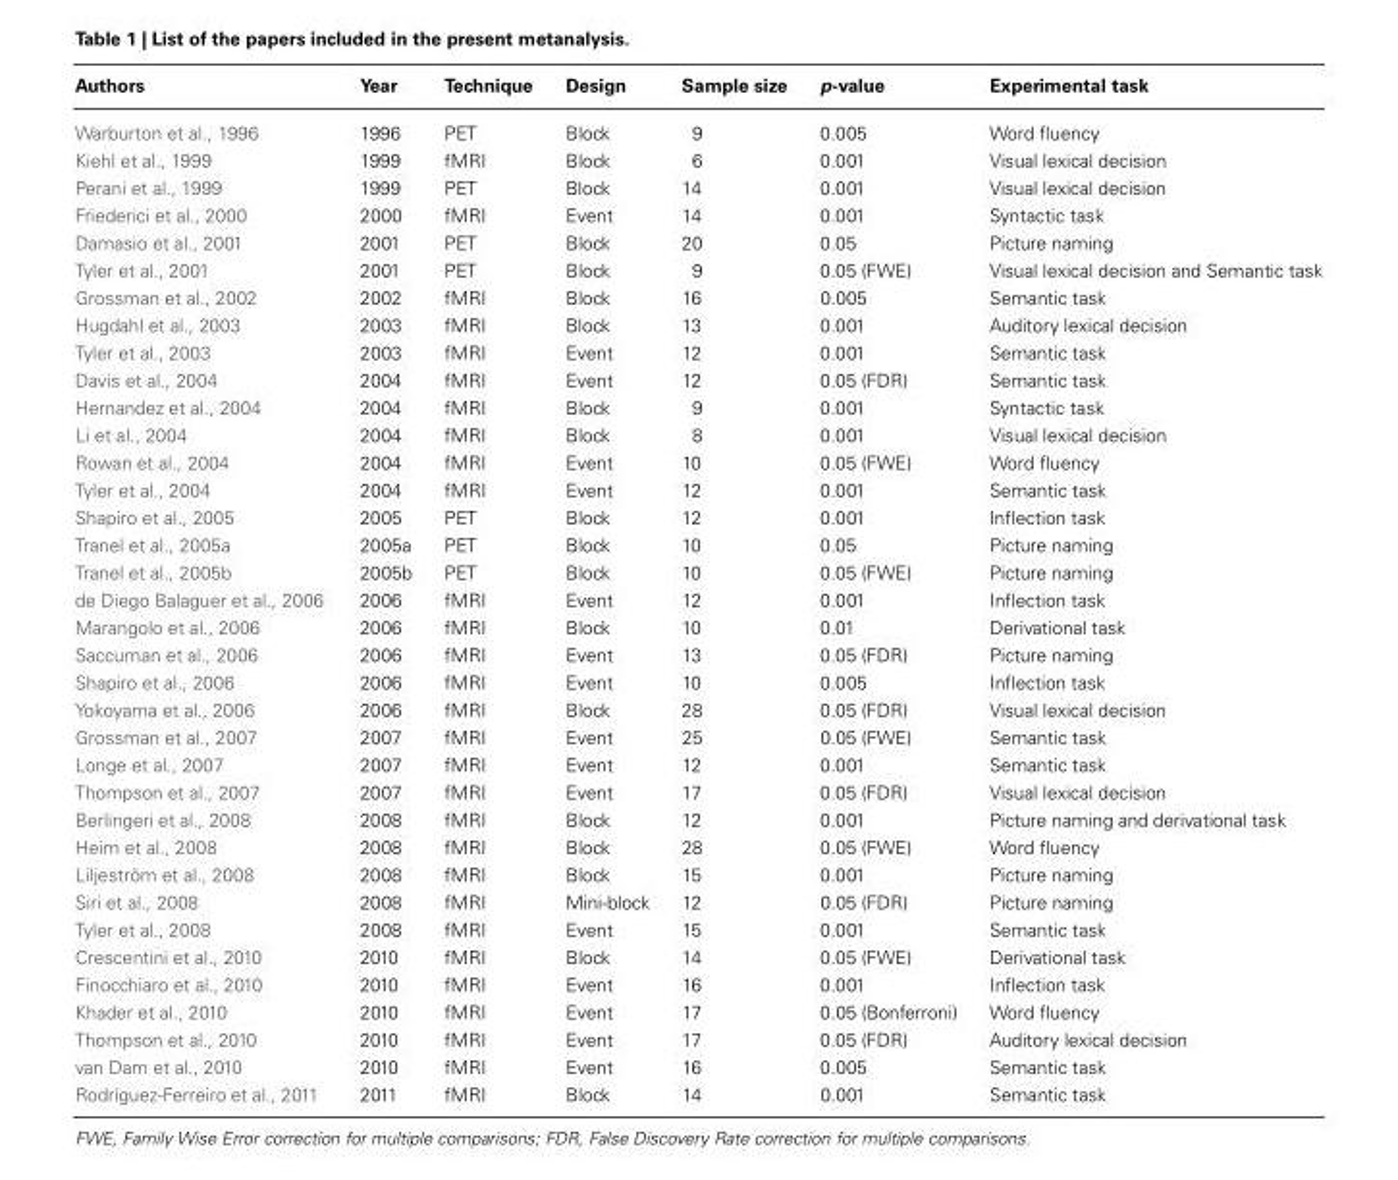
<table><thead><tr><td>Authors</td><td>Year</td><td>Technique</td><td>Design</td><td>Sample size</td><td>p-value</td><td>Experimental task</td></tr></thead><tbody><tr><td>Warburton et al., 1996</td><td>1996</td><td>PET</td><td>Block</td><td>9</td><td>0.005</td><td>Word fluency</td></tr><tr><td>Kiehl et al., 1999</td><td>1999</td><td>fMRI</td><td>Block</td><td>6</td><td>0.001</td><td>Visual lexical decision</td></tr><tr><td>Perani et al., 1999</td><td>1999</td><td>PET</td><td>Block</td><td>14</td><td>0.001</td><td>Visual lexical decision</td></tr><tr><td>Friederici et al., 2000</td><td>2000</td><td>fMRI</td><td>Event</td><td>14</td><td>0.001</td><td>Syntactic task</td></tr><tr><td>Damasio et al., 2001</td><td>2001</td><td>PET</td><td>Block</td><td>20</td><td>0.05</td><td>Picture naming</td></tr><tr><td>Tyler et al., 2001</td><td>2001</td><td>PET</td><td>Block</td><td>9</td><td>0.05 (FWE)</td><td>Visual lexical decision and Semantic task</td></tr><tr><td>Grossman et al., 2002</td><td>2002</td><td>fMRI</td><td>Block</td><td>16</td><td>0.005</td><td>Semantic task</td></tr><tr><td>Hugdahl et al., 2003</td><td>2003</td><td>fMRI</td><td>Block</td><td>13</td><td>0.001</td><td>Auditory lexical decision</td></tr><tr><td>Tyler et al., 2003</td><td>2003</td><td>fMRI</td><td>Event</td><td>12</td><td>0.001</td><td>Semantic task</td></tr><tr><td>Davis et al., 2004</td><td>2004</td><td>fMRI</td><td>Event</td><td>12</td><td>0.05 (FDR)</td><td>Semantic task</td></tr><tr><td>Hernandez et al., 2004</td><td>2004</td><td>fMRI</td><td>Block</td><td>9</td><td>0.001</td><td>Syntactic task</td></tr><tr><td>Li et al., 2004</td><td>2004</td><td>fMRI</td><td>Block</td><td>8</td><td>0.001</td><td>Visual lexical decision</td></tr><tr><td>Rowan et al., 2004</td><td>2004</td><td>fMRI</td><td>Event</td><td>10</td><td>0.05 (FWE)</td><td>Word fluency</td></tr><tr><td>Tyler et al., 2004</td><td>2004</td><td>fMRI</td><td>Event</td><td>12</td><td>0.001</td><td>Semantic task</td></tr><tr><td>Shapiro et al., 2005</td><td>2005</td><td>PET</td><td>Block</td><td>12</td><td>0.001</td><td>Inflection task</td></tr><tr><td>Tranel et al., 2005a</td><td>2005a</td><td>PET</td><td>Block</td><td>10</td><td>0.05</td><td>Picture naming</td></tr><tr><td>Tranel et al., 2005b</td><td>2005b</td><td>PET</td><td>Block</td><td>10</td><td>0.05 (FWE)</td><td>Picture naming</td></tr><tr><td>de Diego Balaguer et al., 2006</td><td>2006</td><td>fMRI</td><td>Event</td><td>12</td><td>0.001</td><td>Inflection task</td></tr><tr><td>Marangolo et al., 2006</td><td>2006</td><td>fMRI</td><td>Block</td><td>10</td><td>0.01</td><td>Derivational task</td></tr><tr><td>Saccuman et al., 2006</td><td>2006</td><td>fMRI</td><td>Event</td><td>13</td><td>0.05 (FDR)</td><td>Picture naming</td></tr><tr><td>Shapiro et al., 2006</td><td>2006</td><td>fMRI</td><td>Event</td><td>10</td><td>0.005</td><td>Inflection task</td></tr><tr><td>Yokoyama et al., 2006</td><td>2006</td><td>fMRI</td><td>Block</td><td>28</td><td>0.05 (FDR)</td><td>Visual lexical decision</td></tr><tr><td>Grossman et al., 2007</td><td>2007</td><td>fMRI</td><td>Event</td><td>25</td><td>0.05 (FWE)</td><td>Semantic task</td></tr><tr><td>Longe et al., 2007</td><td>2007</td><td>fMRI</td><td>Event</td><td>12</td><td>0.001</td><td>Semantic task</td></tr><tr><td>Thompson et al., 2007</td><td>2007</td><td>fMRI</td><td>Event</td><td>17</td><td>0.05 (FDR)</td><td>Visual lexical decision</td></tr><tr><td>Berlingeri et al., 2008</td><td>2008</td><td>fMRI</td><td>Block</td><td>12</td><td>0.001</td><td>Picture naming and derivational task</td></tr><tr><td>Heim et al., 2008</td><td>2008</td><td>fMRI</td><td>Block</td><td>28</td><td>0.05 (FWE)</td><td>Word fluency</td></tr><tr><td>Liljeström et al., 2008</td><td>2008</td><td>fMRI</td><td>Block</td><td>15</td><td>0.001</td><td>Picture naming</td></tr><tr><td>Siri et al., 2008</td><td>2008</td><td>fMRI</td><td>Mini-block</td><td>12</td><td>0.05 (FDR)</td><td>Picture naming</td></tr><tr><td>Tyler et al., 2008</td><td>2008</td><td>fMRI</td><td>Event</td><td>15</td><td>0.001</td><td>Semantic task</td></tr><tr><td>Crescentini et al., 2010</td><td>2010</td><td>fMRI</td><td>Block</td><td>14</td><td>0.05 (FWE)</td><td>Derivational task</td></tr><tr><td>Finocchiaro et al., 2010</td><td>2010</td><td>fMRI</td><td>Event</td><td>16</td><td>0.001</td><td>Inflection task</td></tr><tr><td>Khader et al., 2010</td><td>2010</td><td>fMRI</td><td>Event</td><td>17</td><td>0.05 (Bonferroni)</td><td>Word fluency</td></tr><tr><td>Thompson et al., 2010</td><td>2010</td><td>fMRI</td><td>Event</td><td>17</td><td>0.05 (FDR)</td><td>Auditory lexical decision</td></tr><tr><td>van Dam et al., 2010</td><td>2010</td><td>fMRI</td><td>Event</td><td>16</td><td>0.005</td><td>Semantic task</td></tr><tr><td>Rodríguez-Ferreiro et al., 2011</td><td>2011</td><td>fMRI</td><td>Block</td><td>14</td><td>0.001</td><td>Semantic task</td></tr></tbody></table>